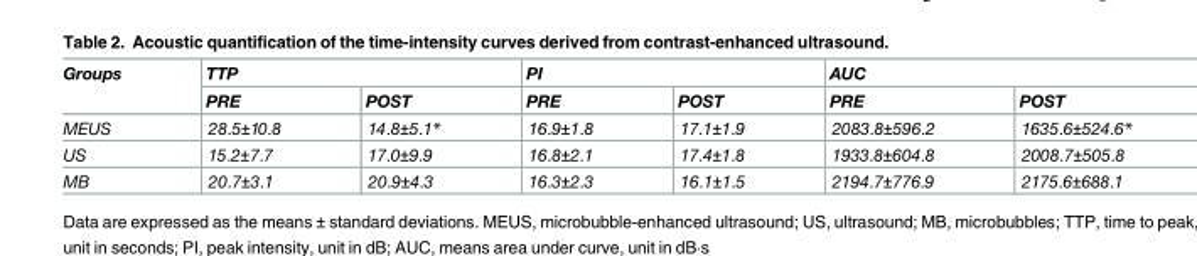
<table><thead><tr><td rowspan="2">Groups</td><td colspan="2">TTP</td><td colspan="2">PI</td><td colspan="2">AUC</td></tr><tr><td>PRE</td><td>POST</td><td>PRE</td><td>POST</td><td>PRE</td><td>POST</td></tr></thead><tbody><tr><td>MEUS</td><td>28.5±10.8</td><td>14.8±5.1*</td><td>16.9±1.8</td><td>17.1±1.9</td><td>2083.8±596.2</td><td>1635.6±524.6*</td></tr><tr><td>US</td><td>15.2±7.7</td><td>17.0±9.9</td><td>16.8±2.1</td><td>17.4±1.8</td><td>1933.8±604.8</td><td>2008.7±505.8</td></tr><tr><td>MB</td><td>20.7±3.1</td><td>20.9±4.3</td><td>16.3±2.3</td><td>16.1±1.5</td><td>2194.7±776.9</td><td>2175.6±688.1</td></tr></tbody></table>